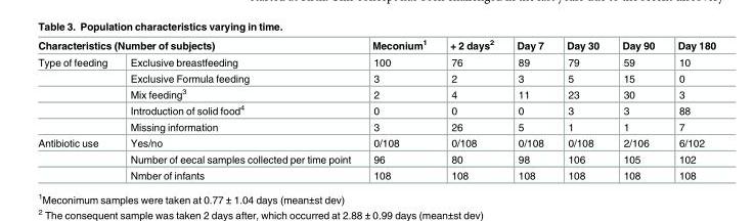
<table><thead><tr><td colspan="2">Characteristics (Number of subjects)</td><td rowspan="2">Meconium<sup>1</sup> 100</td><td rowspan="2">+ 2 days<sup>2</sup> 76</td><td rowspan="2">Day 7 89</td><td rowspan="2">Day 30 79</td><td rowspan="2">Day 90 59</td><td rowspan="2">Day 180 10</td></tr><tr><td>Type of feeding</td><td>Exclusive breastfeeding</td></tr></thead><tbody><tr><td></td><td>Exclusive Formula feeding</td><td>3</td><td>2</td><td>3</td><td>5</td><td>15</td><td>0</td></tr><tr><td></td><td>Mix feeding<sup>3</sup></td><td>2</td><td>4</td><td>11</td><td>23</td><td>30</td><td>3</td></tr><tr><td></td><td>Introduction of solid food<sup>4</sup></td><td>0</td><td>0</td><td>0</td><td>3</td><td>3</td><td>88</td></tr><tr><td></td><td>Missing information</td><td>3</td><td>26</td><td>5</td><td>1</td><td>1</td><td>7</td></tr><tr><td rowspan="3">Antibiotic use</td><td>Yes/no</td><td>0/108</td><td>0/108</td><td>0/108</td><td>0/108</td><td>2/106</td><td>6/102</td></tr><tr><td>Number of eecal samples collected per time point</td><td>96</td><td>80</td><td>98</td><td>106</td><td>105</td><td>102</td></tr><tr><td>Nmber of infants</td><td>108</td><td>108</td><td>108</td><td>108</td><td>108</td><td>108</td></tr></tbody></table>